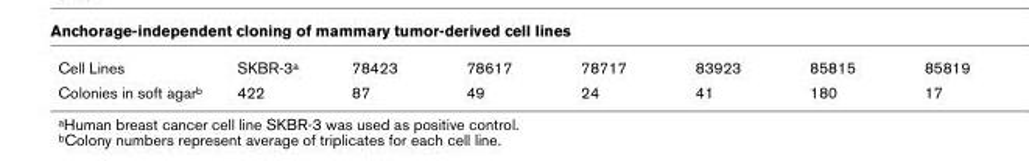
<table><tbody><tr><td>Cell Lines</td><td>SKBR-3a</td><td>78423</td><td>78617</td><td>78717</td><td>83923</td><td>85815</td><td>85819</td></tr><tr><td>Colonies in soft agarb</td><td>422</td><td>87</td><td>49</td><td>24</td><td>41</td><td>180</td><td>17</td></tr></tbody></table>